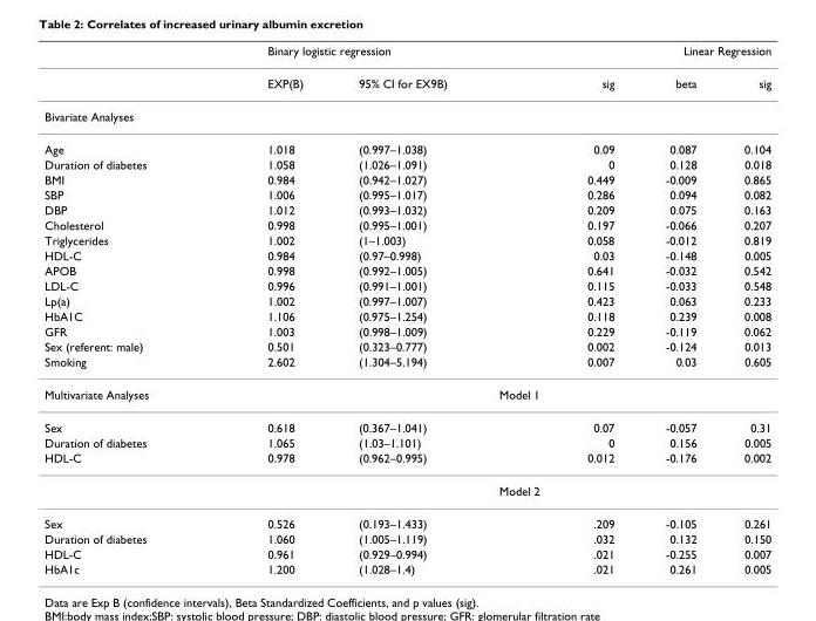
<table><thead><tr><td rowspan="2"></td><td colspan="2">Binary logistic regression</td><td colspan="3">Linear Regression</td></tr><tr><td>EXP(B)</td><td>95% CI for EX9B)</td><td>sig</td><td>beta</td><td>sig</td></tr></thead><tbody><tr><td colspan="6">Bivariate Analyses</td></tr><tr><td>Age</td><td>1.018</td><td>(0.997–1.038)</td><td>0.09</td><td>0.087</td><td>0.104</td></tr><tr><td>Duration of diabetes</td><td>1.058</td><td>(1.026–1.091)</td><td>0</td><td>0.128</td><td>0.018</td></tr><tr><td>BMI</td><td>0.984</td><td>(0.942–1.027)</td><td>0.449</td><td>-0.009</td><td>0.865</td></tr><tr><td>SBP</td><td>1.006</td><td>(0.995–1.017)</td><td>0.286</td><td>0.094</td><td>0.082</td></tr><tr><td>DBP</td><td>1.012</td><td>(0.993–1.032)</td><td>0.209</td><td>0.075</td><td>0.163</td></tr><tr><td>Cholesterol</td><td>0.998</td><td>(0.995–1.001)</td><td>0.197</td><td>-0.066</td><td>0.207</td></tr><tr><td>Triglycerides</td><td>1.002</td><td>(1–1.003)</td><td>0.058</td><td>-0.012</td><td>0.819</td></tr><tr><td>HDL-C</td><td>0.984</td><td>(0.97–0.998)</td><td>0.03</td><td>-0.148</td><td>0.005</td></tr><tr><td>APOB</td><td>0.998</td><td>(0.992–1.005)</td><td>0.641</td><td>-0.032</td><td>0.542</td></tr><tr><td>LDL-C</td><td>0.996</td><td>(0.991–1.001)</td><td>0.115</td><td>-0.033</td><td>0.548</td></tr><tr><td>Lp(a)</td><td>1.002</td><td>(0.997–1.007)</td><td>0.423</td><td>0.063</td><td>0.233</td></tr><tr><td>HbA1C</td><td>1.106</td><td>(0.975–1.254)</td><td>0.118</td><td>0.239</td><td>0.008</td></tr><tr><td>GFR</td><td>1.003</td><td>(0.998–1.009)</td><td>0.229</td><td>-0.119</td><td>0.062</td></tr><tr><td>Sex (referent: male)</td><td>0.501</td><td>(0.323–0.777)</td><td>0.002</td><td>-0.124</td><td>0.013</td></tr><tr><td>Smoking</td><td>2.602</td><td>(1.304–5.194)</td><td>0.007</td><td>0.03</td><td>0.605</td></tr><tr><td>Multivariate Analyses</td><td colspan="5">Model 1</td></tr><tr><td>Sex</td><td>0.618</td><td>(0.367–1.041)</td><td>0.07</td><td>-0.057</td><td>0.31</td></tr><tr><td>Duration of diabetes</td><td>1.065</td><td>(1.03–1.101)</td><td>0</td><td>0.156</td><td>0.005</td></tr><tr><td rowspan="2">HDL-C</td><td>0.978</td><td>(0.962–0.995)</td><td>0.012</td><td>-0.176</td><td>0.002</td></tr><tr><td colspan="5">Model 2</td></tr><tr><td>Sex</td><td>0.526</td><td>(0.193–1.433)</td><td>.209</td><td>-0.105</td><td>0.261</td></tr><tr><td>Duration of diabetes</td><td>1.060</td><td>(1.005–1.119)</td><td>.032</td><td>0.132</td><td>0.150</td></tr><tr><td>HDL-C</td><td>0.961</td><td>(0.929–0.994)</td><td>.021</td><td>-0.255</td><td>0.007</td></tr><tr><td>HbA1c</td><td>1.200</td><td>(1.028–1.4)</td><td>.021</td><td>0.261</td><td>0.005</td></tr></tbody></table>